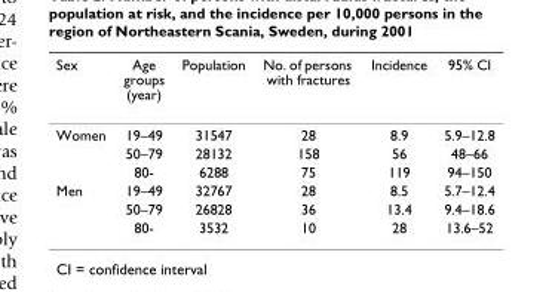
<table><thead><tr><td>Sex</td><td>Age groups (year)</td><td>Population</td><td>No. of persons with fractures</td><td>Incidence</td><td>95% CI</td></tr></thead><tbody><tr><td rowspan="3">Women</td><td>19–49</td><td>31547</td><td>28</td><td>8.9</td><td>5.9–12.8</td></tr><tr><td>50–79</td><td>28132</td><td>158</td><td>56</td><td>48–66</td></tr><tr><td>80-</td><td>6288</td><td>75</td><td>119</td><td>94–150</td></tr><tr><td rowspan="3">Men</td><td>19–49</td><td>32767</td><td>28</td><td>8.5</td><td>5.7–12.4</td></tr><tr><td>50–79</td><td>26828</td><td>36</td><td>13.4</td><td>9.4–18.6</td></tr><tr><td>80-</td><td>3532</td><td>10</td><td>28</td><td>13.6–52</td></tr></tbody></table>